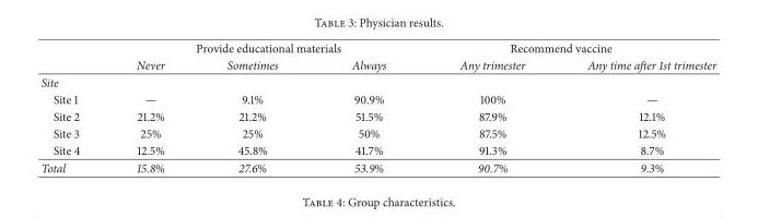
<table><thead><tr><td rowspan="2"></td><td colspan="3">Provide educational materials</td><td colspan="2">Recommend vaccine</td></tr><tr><td>Never</td><td>Sometimes</td><td>Always</td><td>Any trimester</td><td>Any time after 1st trimester</td></tr></thead><tbody><tr><td colspan="6">Site</td></tr><tr><td>Site 1</td><td>—</td><td>9.1%</td><td>90.9%</td><td>100%</td><td>—</td></tr><tr><td>Site 2</td><td>21.2%</td><td>21.2%</td><td>51.5%</td><td>87.9%</td><td>12.1%</td></tr><tr><td>Site 3</td><td>25%</td><td>25%</td><td>50%</td><td>87.5%</td><td>12.5%</td></tr><tr><td>Site 4</td><td>12.5%</td><td>45.8%</td><td>41.7%</td><td>91.3%</td><td>8.7%</td></tr><tr><td>Total</td><td>15.8%</td><td>27.6%</td><td>53.9%</td><td>90.7%</td><td>9.3%</td></tr></tbody></table>